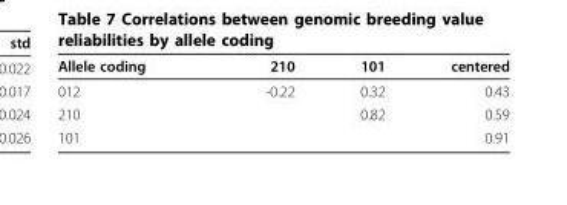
<table><thead><tr><td>Allele coding</td><td>210</td><td>101</td><td>centered</td></tr></thead><tbody><tr><td>012</td><td>-0.22</td><td>0.32</td><td>0.43</td></tr><tr><td>210</td><td></td><td>0.82</td><td>0.59</td></tr><tr><td>101</td><td></td><td></td><td>0.91</td></tr></tbody></table>